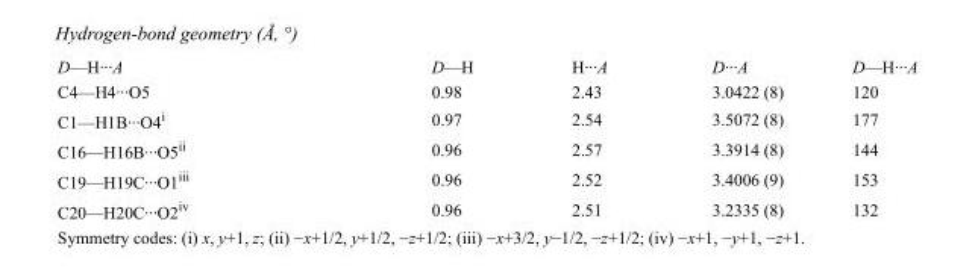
<table><tbody><tr><td>D—H···A</td><td>D—H</td><td>H···A</td><td>D···A</td><td>D—H···A</td></tr><tr><td>C4—H4···O5</td><td>0.98</td><td>2.43</td><td>3.0422 (8)</td><td>120</td></tr><tr><td>C1—H1B···O4<sup>i</sup></td><td>0.97</td><td>2.54</td><td>3.5072 (8)</td><td>177</td></tr><tr><td>C16—H16B···O5<sup>ii</sup></td><td>0.96</td><td>2.57</td><td>3.3914 (8)</td><td>144</td></tr><tr><td>C19—H19C···O1<sup>iii</sup></td><td>0.96</td><td>2.52</td><td>3.4006 (9)</td><td>153</td></tr><tr><td>C20—H20C···O2<sup>iv</sup></td><td>0.96</td><td>2.51</td><td>3.2335 (8)</td><td>132</td></tr></tbody></table>